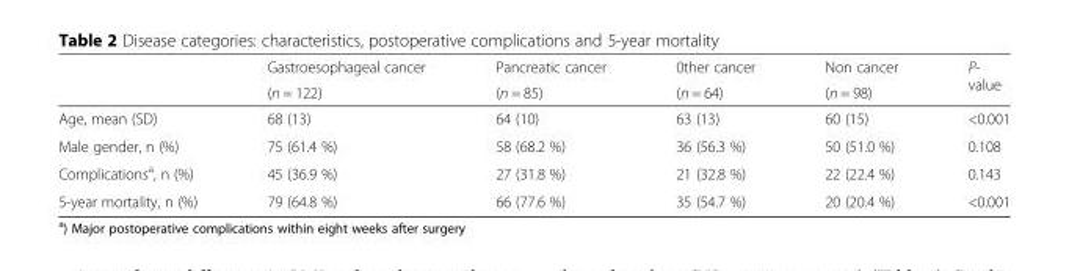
<table><thead><tr><td rowspan="2"></td><td rowspan="2">Gastroesophageal cancer (n = 122)</td><td rowspan="2">Pancreatic cancer (n = 85)</td><td rowspan="2">0ther cancer (n = 64)</td><td rowspan="2">Non cancer (n = 98)</td><td rowspan="2">P- value</td></tr><tr></tr></thead><tbody><tr><td>Age, mean (SD)</td><td>68 (13)</td><td>64 (10)</td><td>63 (13)</td><td>60 (15)</td><td>&lt;0.001</td></tr><tr><td>Male gender, n (%)</td><td>75 (61.4 %)</td><td>58 (68.2 %)</td><td>36 (56.3 %)</td><td>50 (51.0 %)</td><td>0.108</td></tr><tr><td>Complications<sup>a</sup>, n (%)</td><td>45 (36.9 %)</td><td>27 (31.8 %)</td><td>21 (32.8 %)</td><td>22 (22.4 %)</td><td>0.143</td></tr><tr><td>5-year mortality, n (%)</td><td>79 (64.8 %)</td><td>66 (77.6 %)</td><td>35 (54.7 %)</td><td>20 (20.4 %)</td><td>&lt;0.001</td></tr></tbody></table>